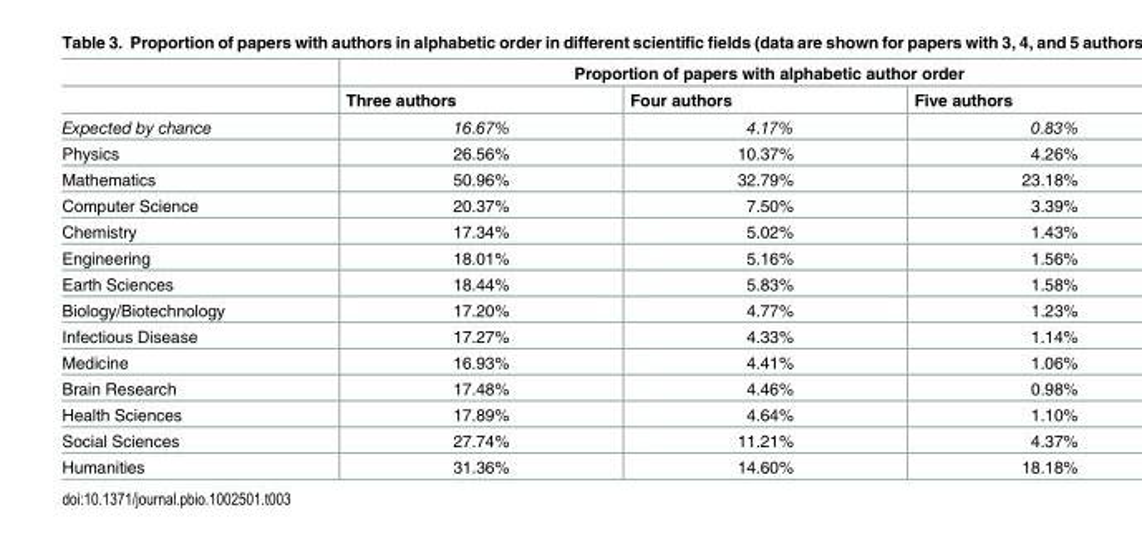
<table><thead><tr><td rowspan="2"></td><td colspan="3">Proportion of papers with alphabetic author order</td></tr><tr><td>Three authors</td><td>Four authors</td><td>Five authors</td></tr></thead><tbody><tr><td>Expected by chance</td><td>16.67%</td><td>4.17%</td><td>0.83%</td></tr><tr><td>Physics</td><td>26.56%</td><td>10.37%</td><td>4.26%</td></tr><tr><td>Mathematics</td><td>50.96%</td><td>32.79%</td><td>23.18%</td></tr><tr><td>Computer Science</td><td>20.37%</td><td>7.50%</td><td>3.39%</td></tr><tr><td>Chemistry</td><td>17.34%</td><td>5.02%</td><td>1.43%</td></tr><tr><td>Engineering</td><td>18.01%</td><td>5.16%</td><td>1.56%</td></tr><tr><td>Earth Sciences</td><td>18.44%</td><td>5.83%</td><td>1.58%</td></tr><tr><td>Biology/Biotechnology</td><td>17.20%</td><td>4.77%</td><td>1.23%</td></tr><tr><td>Infectious Disease</td><td>17.27%</td><td>4.33%</td><td>1.14%</td></tr><tr><td>Medicine</td><td>16.93%</td><td>4.41%</td><td>1.06%</td></tr><tr><td>Brain Research</td><td>17.48%</td><td>4.46%</td><td>0.98%</td></tr><tr><td>Health Sciences</td><td>17.89%</td><td>4.64%</td><td>1.10%</td></tr><tr><td>Social Sciences</td><td>27.74%</td><td>11.21%</td><td>4.37%</td></tr><tr><td>Humanities</td><td>31.36%</td><td>14.60%</td><td>18.18%</td></tr></tbody></table>